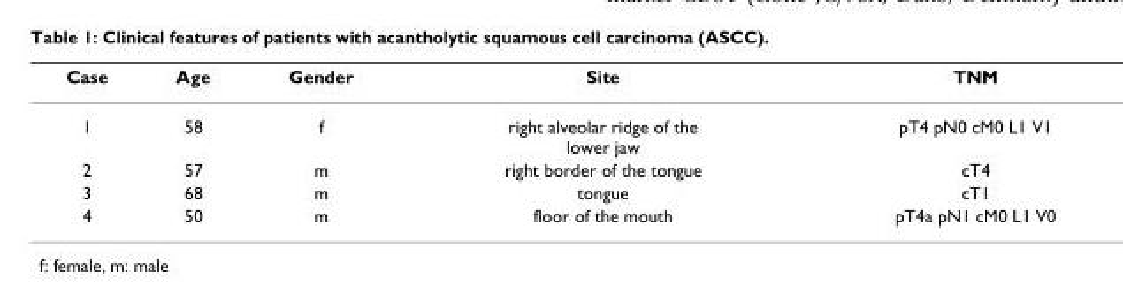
<table><thead><tr><td>Case</td><td>Age</td><td>Gender</td><td>Site</td><td>TNM</td></tr></thead><tbody><tr><td>1</td><td>58</td><td>f</td><td>right alveolar ridge of the lower jaw</td><td>pT4 pN0 cM0 L1 V1</td></tr><tr><td>2</td><td>57</td><td>m</td><td>right border of the tongue</td><td>cT4</td></tr><tr><td>3</td><td>68</td><td>m</td><td>tongue</td><td>cT1</td></tr><tr><td>4</td><td>50</td><td>m</td><td>floor of the mouth</td><td>pT4a pN1 cM0 L1 V0</td></tr></tbody></table>